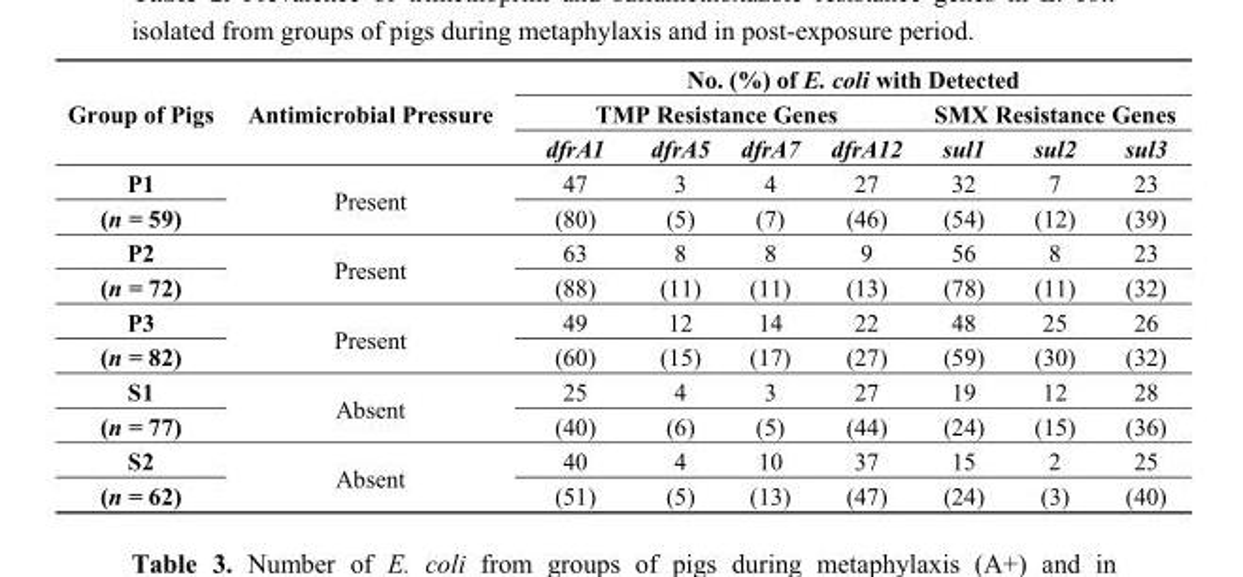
<table><thead><tr><td rowspan="3">Group of Pigs</td><td rowspan="3">Antimicrobial Pressure</td><td colspan="7">No. (%) of E. coli with Detected</td></tr><tr><td colspan="4">TMP Resistance Genes</td><td colspan="3">SMX Resistance Genes</td></tr><tr><td>dfrA1</td><td>dfrA5</td><td>dfrA7</td><td>dfrA12</td><td>sul1</td><td>sul2</td><td>sul3</td></tr></thead><tbody><tr><td>P1</td><td rowspan="2">Present</td><td>47</td><td>3</td><td>4</td><td>27</td><td>32</td><td>7</td><td>23</td></tr><tr><td>(n = 59)</td><td>(80)</td><td>(5)</td><td>(7)</td><td>(46)</td><td>(54)</td><td>(12)</td><td>(39)</td></tr><tr><td>P2</td><td rowspan="2">Present</td><td>63</td><td>8</td><td>8</td><td>9</td><td>56</td><td>8</td><td>23</td></tr><tr><td>(n = 72)</td><td>(88)</td><td>(11)</td><td>(11)</td><td>(13)</td><td>(78)</td><td>(11)</td><td>(32)</td></tr><tr><td>P3</td><td rowspan="2">Present</td><td>49</td><td>12</td><td>14</td><td>22</td><td>48</td><td>25</td><td>26</td></tr><tr><td>(n = 82)</td><td>(60)</td><td>(15)</td><td>(17)</td><td>(27)</td><td>(59)</td><td>(30)</td><td>(32)</td></tr><tr><td>S1</td><td rowspan="2">Absent</td><td>25</td><td>4</td><td>3</td><td>27</td><td>19</td><td>12</td><td>28</td></tr><tr><td>(n = 77)</td><td>(40)</td><td>(6)</td><td>(5)</td><td>(44)</td><td>(24)</td><td>(15)</td><td>(36)</td></tr><tr><td>S2</td><td rowspan="2">Absent</td><td>40</td><td>4</td><td>10</td><td>37</td><td>15</td><td>2</td><td>25</td></tr><tr><td>(n = 62)</td><td>(51)</td><td>(5)</td><td>(13)</td><td>(47)</td><td>(24)</td><td>(3)</td><td>(40)</td></tr></tbody></table>